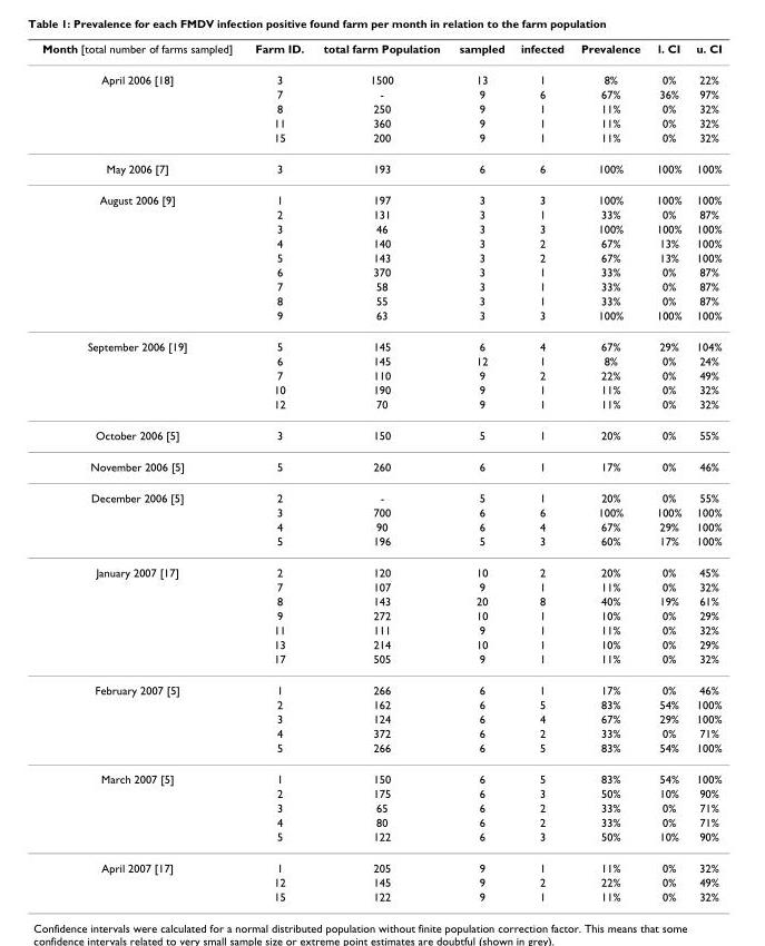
<table><thead><tr><td>Month [total number of farms sampled]</td><td>Farm ID.</td><td>total farm Population</td><td>sampled</td><td>infected</td><td>Prevalence</td><td>l. CI</td><td>u. CI</td></tr></thead><tbody><tr><td rowspan="5">April 2006 [18]</td><td>3</td><td>1500</td><td>13</td><td>1</td><td>8%</td><td>0%</td><td>22%</td></tr><tr><td>7</td><td>-</td><td>9</td><td>6</td><td>67%</td><td>36%</td><td>97%</td></tr><tr><td>8</td><td>250</td><td>9</td><td>1</td><td>11%</td><td>0%</td><td>32%</td></tr><tr><td>11</td><td>360</td><td>9</td><td>1</td><td>11%</td><td>0%</td><td>32%</td></tr><tr><td>15</td><td>200</td><td>9</td><td>1</td><td>11%</td><td>0%</td><td>32%</td></tr><tr><td>May 2006 [7]</td><td>3</td><td>193</td><td>6</td><td>6</td><td>100%</td><td>100%</td><td>100%</td></tr><tr><td rowspan="9">August 2006 [9]</td><td>1</td><td>197</td><td>3</td><td>3</td><td>100%</td><td>100%</td><td>100%</td></tr><tr><td>2</td><td>131</td><td>3</td><td>1</td><td>33%</td><td>0%</td><td>87%</td></tr><tr><td>3</td><td>46</td><td>3</td><td>3</td><td>100%</td><td>100%</td><td>100%</td></tr><tr><td>4</td><td>140</td><td>3</td><td>2</td><td>67%</td><td>13%</td><td>100%</td></tr><tr><td>5</td><td>143</td><td>3</td><td>2</td><td>67%</td><td>13%</td><td>100%</td></tr><tr><td>6</td><td>370</td><td>3</td><td>1</td><td>33%</td><td>0%</td><td>87%</td></tr><tr><td>7</td><td>58</td><td>3</td><td>1</td><td>33%</td><td>0%</td><td>87%</td></tr><tr><td>8</td><td>55</td><td>3</td><td>1</td><td>33%</td><td>0%</td><td>87%</td></tr><tr><td>9</td><td>63</td><td>3</td><td>3</td><td>100%</td><td>100%</td><td>100%</td></tr><tr><td rowspan="5">September 2006 [19]</td><td>5</td><td>145</td><td>6</td><td>4</td><td>67%</td><td>29%</td><td>104%</td></tr><tr><td>6</td><td>145</td><td>12</td><td>1</td><td>8%</td><td>0%</td><td>24%</td></tr><tr><td>7</td><td>110</td><td>9</td><td>2</td><td>22%</td><td>0%</td><td>49%</td></tr><tr><td>10</td><td>190</td><td>9</td><td>1</td><td>11%</td><td>0%</td><td>32%</td></tr><tr><td>12</td><td>70</td><td>9</td><td>1</td><td>11%</td><td>0%</td><td>32%</td></tr><tr><td>October 2006 [5]</td><td>3</td><td>150</td><td>5</td><td>1</td><td>20%</td><td>0%</td><td>55%</td></tr><tr><td>November 2006 [5]</td><td>5</td><td>260</td><td>6</td><td>1</td><td>17%</td><td>0%</td><td>46%</td></tr><tr><td rowspan="4">December 2006 [5]</td><td>2</td><td>-</td><td>5</td><td>1</td><td>20%</td><td>0%</td><td>55%</td></tr><tr><td>3</td><td>700</td><td>6</td><td>6</td><td>100%</td><td>100%</td><td>100%</td></tr><tr><td>4</td><td>90</td><td>6</td><td>4</td><td>67%</td><td>29%</td><td>100%</td></tr><tr><td>5</td><td>196</td><td>5</td><td>3</td><td>60%</td><td>17%</td><td>100%</td></tr><tr><td rowspan="7">January 2007 [17]</td><td>2</td><td>120</td><td>10</td><td>2</td><td>20%</td><td>0%</td><td>45%</td></tr><tr><td>7</td><td>107</td><td>9</td><td>1</td><td>11%</td><td>0%</td><td>32%</td></tr><tr><td>8</td><td>143</td><td>20</td><td>8</td><td>40%</td><td>19%</td><td>61%</td></tr><tr><td>9</td><td>272</td><td>10</td><td>1</td><td>10%</td><td>0%</td><td>29%</td></tr><tr><td>11</td><td>111</td><td>9</td><td>1</td><td>11%</td><td>0%</td><td>32%</td></tr><tr><td>13</td><td>214</td><td>10</td><td>1</td><td>10%</td><td>0%</td><td>29%</td></tr><tr><td>17</td><td>505</td><td>9</td><td>1</td><td>11%</td><td>0%</td><td>32%</td></tr><tr><td rowspan="5">February 2007 [5]</td><td>1</td><td>266</td><td>6</td><td>1</td><td>17%</td><td>0%</td><td>46%</td></tr><tr><td>2</td><td>162</td><td>6</td><td>5</td><td>83%</td><td>54%</td><td>100%</td></tr><tr><td>3</td><td>124</td><td>6</td><td>4</td><td>67%</td><td>29%</td><td>100%</td></tr><tr><td>4</td><td>372</td><td>6</td><td>2</td><td>33%</td><td>0%</td><td>71%</td></tr><tr><td>5</td><td>266</td><td>6</td><td>5</td><td>83%</td><td>54%</td><td>100%</td></tr><tr><td rowspan="5">March 2007 [5]</td><td>1</td><td>150</td><td>6</td><td>5</td><td>83%</td><td>54%</td><td>100%</td></tr><tr><td>2</td><td>175</td><td>6</td><td>3</td><td>50%</td><td>10%</td><td>90%</td></tr><tr><td>3</td><td>65</td><td>6</td><td>2</td><td>33%</td><td>0%</td><td>71%</td></tr><tr><td>4</td><td>80</td><td>6</td><td>2</td><td>33%</td><td>0%</td><td>71%</td></tr><tr><td>5</td><td>122</td><td>6</td><td>3</td><td>50%</td><td>10%</td><td>90%</td></tr><tr><td rowspan="3">April 2007 [17]</td><td>1</td><td>205</td><td>9</td><td>1</td><td>11%</td><td>0%</td><td>32%</td></tr><tr><td>12</td><td>145</td><td>9</td><td>2</td><td>22%</td><td>0%</td><td>49%</td></tr><tr><td>15</td><td>122</td><td>9</td><td>1</td><td>11%</td><td>0%</td><td>32%</td></tr></tbody></table>